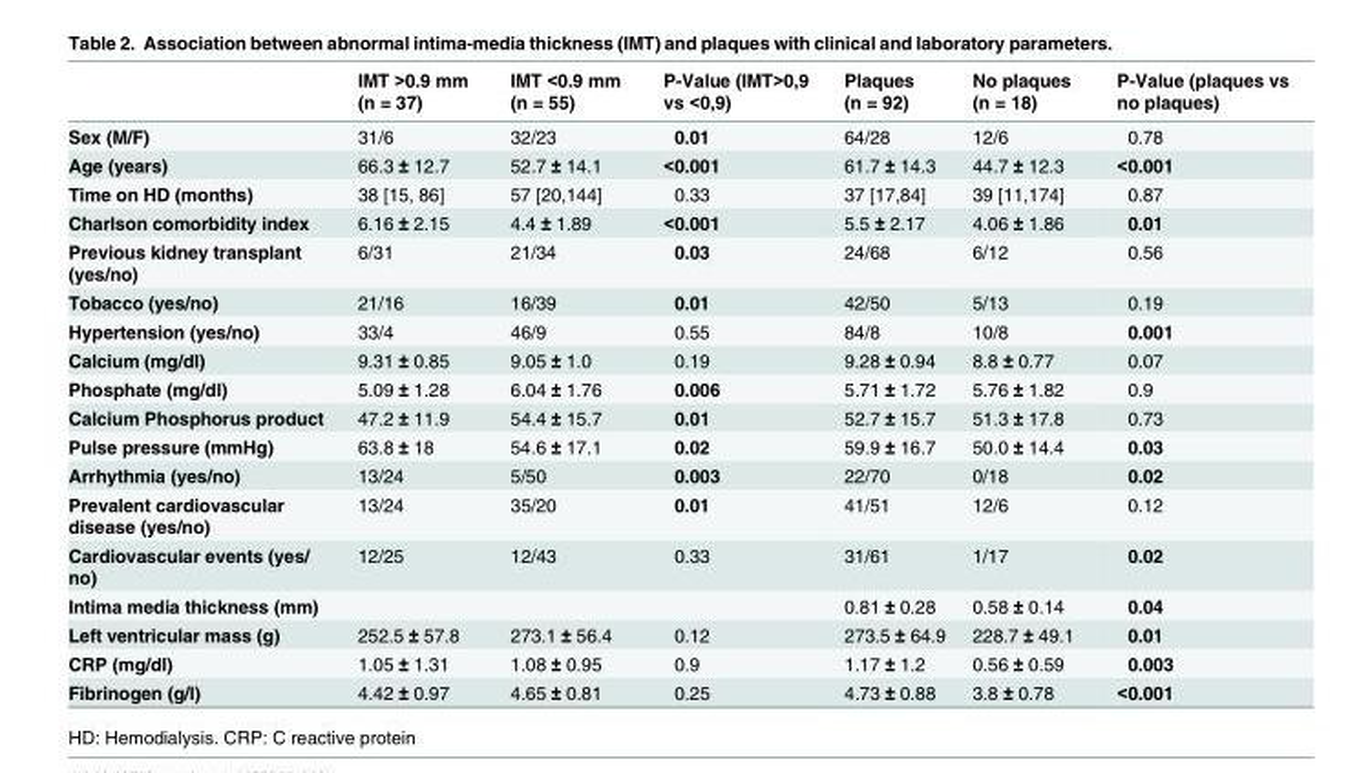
<table><thead><tr><td></td><td>IMT &gt;0.9 mm (n = 37)</td><td>IMT &lt;0.9 mm (n = 55)</td><td>P-Value (IMT&gt;0,9 vs &lt;0,9)</td><td>Plaques (n = 92)</td><td>No plaques (n = 18)</td><td>P-Value (plaques vs no plaques)</td></tr></thead><tbody><tr><td>Sex (M/F)</td><td>31/6</td><td>32/23</td><td>0.01</td><td>64/28</td><td>12/6</td><td>0.78</td></tr><tr><td>Age (years)</td><td>66.3 ± 12.7</td><td>52.7 ± 14.1</td><td>&lt;0.001</td><td>61.7 ± 14.3</td><td>44.7 ± 12.3</td><td>&lt;0.001</td></tr><tr><td>Time on HD (months)</td><td>38 [15, 86]</td><td>57 [20,144]</td><td>0.33</td><td>37 [17,84]</td><td>39 [11,174]</td><td>0.87</td></tr><tr><td>Charlson comorbidity index</td><td>6.16 ± 2.15</td><td>4.4 ± 1.89</td><td>&lt;0.001</td><td>5.5 ± 2.17</td><td>4.06 ± 1.86</td><td>0.01</td></tr><tr><td>Previous kidney transplant (yes/no)</td><td>6/31</td><td>21/34</td><td>0.03</td><td>24/68</td><td>6/12</td><td>0.56</td></tr><tr><td>Tobacco (yes/no)</td><td>21/16</td><td>16/39</td><td>0.01</td><td>42/50</td><td>5/13</td><td>0.19</td></tr><tr><td>Hypertension (yes/no)</td><td>33/4</td><td>46/9</td><td>0.55</td><td>84/8</td><td>10/8</td><td>0.001</td></tr><tr><td>Calcium (mg/dl)</td><td>9.31 ± 0.85</td><td>9.05 ± 1.0</td><td>0.19</td><td>9.28 ± 0.94</td><td>8.8 ± 0.77</td><td>0.07</td></tr><tr><td>Phosphate (mg/dl)</td><td>5.09 ± 1.28</td><td>6.04 ± 1.76</td><td>0.006</td><td>5.71 ± 1.72</td><td>5.76 ± 1.82</td><td>0.9</td></tr><tr><td>Calcium Phosphorus product</td><td>47.2 ± 11.9</td><td>54.4 ± 15.7</td><td>0.01</td><td>52.7 ± 15.7</td><td>51.3 ± 17.8</td><td>0.73</td></tr><tr><td>Pulse pressure (mmHg)</td><td>63.8 ± 18</td><td>54.6 ± 17.1</td><td>0.02</td><td>59.9 ± 16.7</td><td>50.0 ± 14.4</td><td>0.03</td></tr><tr><td>Arrhythmia (yes/no)</td><td>13/24</td><td>5/50</td><td>0.003</td><td>22/70</td><td>0/18</td><td>0.02</td></tr><tr><td>Prevalent cardiovascular disease (yes/no)</td><td>13/24</td><td>35/20</td><td>0.01</td><td>41/51</td><td>12/6</td><td>0.12</td></tr><tr><td>Cardiovascular events (yes/ no)</td><td>12/25</td><td>12/43</td><td>0.33</td><td>31/61</td><td>1/17</td><td>0.02</td></tr><tr><td>Intima media thickness (mm)</td><td></td><td></td><td></td><td>0.81 ± 0.28</td><td>0.58 ± 0.14</td><td>0.04</td></tr><tr><td>Left ventricular mass (g)</td><td>252.5 ± 57.8</td><td>273.1 ± 56.4</td><td>0.12</td><td>273.5 ± 64.9</td><td>228.7 ± 49.1</td><td>0.01</td></tr><tr><td>CRP (mg/dl)</td><td>1.05 ± 1.31</td><td>1.08 ± 0.95</td><td>0.9</td><td>1.17 ± 1.2</td><td>0.56 ± 0.59</td><td>0.003</td></tr><tr><td>Fibrinogen (g/l)</td><td>4.42 ± 0.97</td><td>4.65 ± 0.81</td><td>0.25</td><td>4.73 ± 0.88</td><td>3.8 ± 0.78</td><td>&lt;0.001</td></tr></tbody></table>